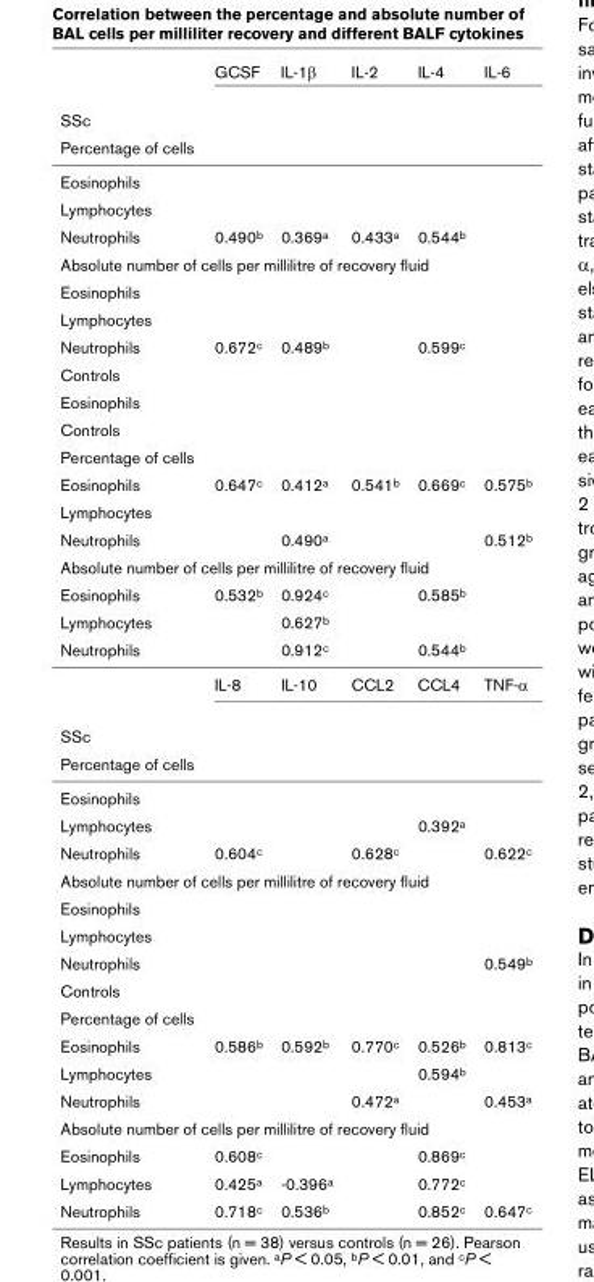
<table><thead><tr><td></td><td>GCSF</td><td>IL-1β</td><td>IL-2</td><td>IL-4</td><td>IL-6</td></tr><tr><td rowspan="2" colspan="6">SSc Percentage of cells</td></tr><tr></tr></thead><tbody><tr><td colspan="6">Eosinophils</td></tr><tr><td colspan="6">Lymphocytes</td></tr><tr><td>Neutrophils</td><td>0.490<sup>b</sup></td><td>0.369<sup>a</sup></td><td>0.433<sup>a</sup></td><td>0.544<sup>b</sup></td><td></td></tr><tr><td colspan="6">Absolute number of cells per millilitre of recovery fluid</td></tr><tr><td colspan="6">Eosinophils</td></tr><tr><td colspan="6">Lymphocytes</td></tr><tr><td>Neutrophils</td><td>0.672<sup>c</sup></td><td>0.489<sup>b</sup></td><td></td><td>0.599<sup>c</sup></td><td></td></tr><tr><td colspan="6">Controls</td></tr><tr><td colspan="6">Eosinophils</td></tr><tr><td colspan="6">Controls</td></tr><tr><td colspan="6">Percentage of cells</td></tr><tr><td>Eosinophils</td><td>0.647<sup>c</sup></td><td>0.412<sup>a</sup></td><td>0.541<sup>b</sup></td><td>0.669<sup>c</sup></td><td>0.575<sup>b</sup></td></tr><tr><td colspan="6">Lymphocytes</td></tr><tr><td>Neutrophils</td><td></td><td>0.490<sup>a</sup></td><td></td><td></td><td>0.512<sup>b</sup></td></tr><tr><td colspan="6">Absolute number of cells per millilitre of recovery fluid</td></tr><tr><td>Eosinophils</td><td>0.532<sup>b</sup></td><td>0.924<sup>c</sup></td><td></td><td>0.585<sup>b</sup></td><td></td></tr><tr><td>Lymphocytes</td><td></td><td>0.627<sup>b</sup></td><td></td><td></td><td></td></tr><tr><td rowspan="2">Neutrophils</td><td></td><td>0.912<sup>c</sup></td><td></td><td>0.544<sup>b</sup></td><td></td></tr><tr><td>IL-8</td><td>IL-10</td><td>CCL2</td><td>CCL4</td><td>TNF-α</td></tr><tr><td colspan="6">SSc</td></tr><tr><td colspan="6">Percentage of cells</td></tr><tr><td colspan="6">Eosinophils</td></tr><tr><td>Lymphocytes</td><td></td><td></td><td></td><td>0.392<sup>a</sup></td><td></td></tr><tr><td>Neutrophils</td><td>0.604<sup>c</sup></td><td></td><td>0.628<sup>c</sup></td><td></td><td>0.622<sup>c</sup></td></tr><tr><td colspan="6">Absolute number of cells per millilitre of recovery fluid</td></tr><tr><td colspan="6">Eosinophils</td></tr><tr><td colspan="6">Lymphocytes</td></tr><tr><td>Neutrophils</td><td></td><td></td><td></td><td></td><td>0.549<sup>b</sup></td></tr><tr><td colspan="6">Controls</td></tr><tr><td colspan="6">Percentage of cells</td></tr><tr><td>Eosinophils</td><td>0.586<sup>b</sup></td><td>0.592<sup>b</sup></td><td>0.770<sup>c</sup></td><td>0.526<sup>b</sup></td><td>0.813<sup>c</sup></td></tr><tr><td>Lymphocytes</td><td></td><td></td><td></td><td>0.594<sup>b</sup></td><td></td></tr><tr><td>Neutrophils</td><td></td><td></td><td>0.472<sup>a</sup></td><td></td><td>0.453<sup>a</sup></td></tr><tr><td colspan="6">Absolute number of cells per millilitre of recovery fluid</td></tr><tr><td>Eosinophils</td><td>0.608<sup>c</sup></td><td></td><td></td><td>0.869<sup>c</sup></td><td></td></tr><tr><td>Lymphocytes</td><td>0.425<sup>a</sup></td><td>-0.396<sup>a</sup></td><td></td><td>0.772<sup>c</sup></td><td></td></tr><tr><td>Neutrophils</td><td>0.718<sup>c</sup></td><td>0.536<sup>b</sup></td><td></td><td>0.852<sup>c</sup></td><td>0.647<sup>c</sup></td></tr></tbody></table>